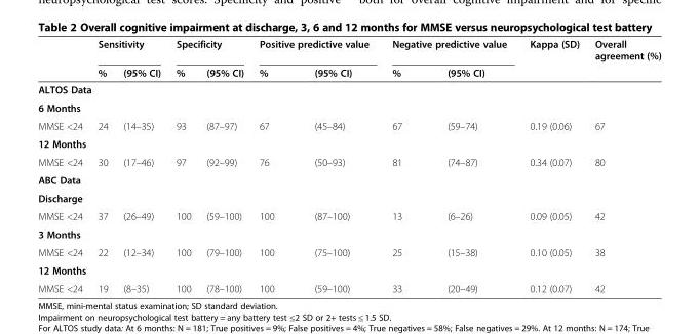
<table><thead><tr><td rowspan="2"></td><td colspan="2">Sensitivity</td><td colspan="2">Specificity</td><td colspan="2">Positive predictive value</td><td colspan="2">Negative predictive value</td><td rowspan="2">Kappa (SD)</td><td rowspan="2">Overall agreement (%)</td></tr><tr><td>%</td><td>(95% CI)</td><td>%</td><td>(95% CI)</td><td>%</td><td>(95% CI)</td><td>%</td><td>(95% CI)</td></tr></thead><tbody><tr><td colspan="11">ALTOS Data</td></tr><tr><td colspan="11">6 Months</td></tr><tr><td>MMSE &lt;24</td><td>24</td><td>(14–35)</td><td>93</td><td>(87–97)</td><td>67</td><td>(45–84)</td><td>67</td><td>(59–74)</td><td>0.19 (0.06)</td><td>67</td></tr><tr><td colspan="11">12 Months</td></tr><tr><td>MMSE &lt;24</td><td>30</td><td>(17–46)</td><td>97</td><td>(92–99)</td><td>76</td><td>(50–93)</td><td>81</td><td>(74–87)</td><td>0.34 (0.07)</td><td>80</td></tr><tr><td colspan="11">ABC Data</td></tr><tr><td colspan="11">Discharge</td></tr><tr><td>MMSE &lt;24</td><td>37</td><td>(26–49)</td><td>100</td><td>(59–100)</td><td>100</td><td>(87–100)</td><td>13</td><td>(6–26)</td><td>0.09 (0.05)</td><td>42</td></tr><tr><td colspan="11">3 Months</td></tr><tr><td>MMSE &lt;24</td><td>22</td><td>(12–34)</td><td>100</td><td>(79–100)</td><td>100</td><td>(75–100)</td><td>25</td><td>(15–38)</td><td>0.10 (0.05)</td><td>38</td></tr><tr><td colspan="11">12 Months</td></tr><tr><td>MMSE &lt;24</td><td>19</td><td>(8–35)</td><td>100</td><td>(78–100)</td><td>100</td><td>(59–100)</td><td>33</td><td>(20–49)</td><td>0.12 (0.07)</td><td>42</td></tr></tbody></table>